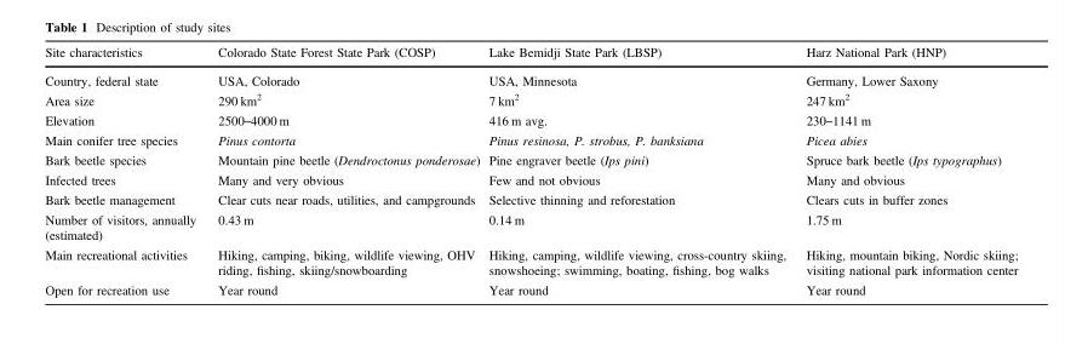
<table><thead><tr><td>Site characteristics</td><td>Colorado State Forest State Park (COSP)</td><td>Lake Bemidji State Park (LBSP)</td><td>Harz National Park (HNP)</td></tr></thead><tbody><tr><td>Country, federal state</td><td>USA, Colorado</td><td>USA, Minnesota</td><td>Germany, Lower Saxony</td></tr><tr><td>Area size</td><td>290 km<sup>2</sup></td><td>7 km<sup>2</sup></td><td>247 km<sup>2</sup></td></tr><tr><td>Elevation</td><td>2500–4000 m</td><td>416 m avg.</td><td>230–1141 m</td></tr><tr><td>Main conifer tree species</td><td>Pinus contorta</td><td>Pinus resinosa, P. strobus, P. banksiana</td><td>Picea abies</td></tr><tr><td>Bark beetle species</td><td>Mountain pine beetle (Dendroctonus ponderosae)</td><td>Pine engraver beetle (Ips pini)</td><td>Spruce bark beetle (Ips typographus)</td></tr><tr><td>Infected trees</td><td>Many and very obvious</td><td>Few and not obvious</td><td>Many and obvious</td></tr><tr><td>Bark beetle management</td><td>Clear cuts near roads, utilities, and campgrounds</td><td>Selective thinning and reforestation</td><td>Clears cuts in buffer zones</td></tr><tr><td>Number of visitors, annually (estimated)</td><td>0.43 m</td><td>0.14 m</td><td>1.75 m</td></tr><tr><td>Main recreational activities</td><td>Hiking, camping, biking, wildlife viewing, OHV riding, fishing, skiing/snowboarding</td><td>Hiking, camping, wildlife viewing, cross-country skiing, snowshoeing; swimming, boating, fishing, bog walks</td><td>Hiking, mountain biking, Nordic skiing; visiting national park information center</td></tr><tr><td>Open for recreation use</td><td>Year round</td><td>Year round</td><td>Year round</td></tr></tbody></table>